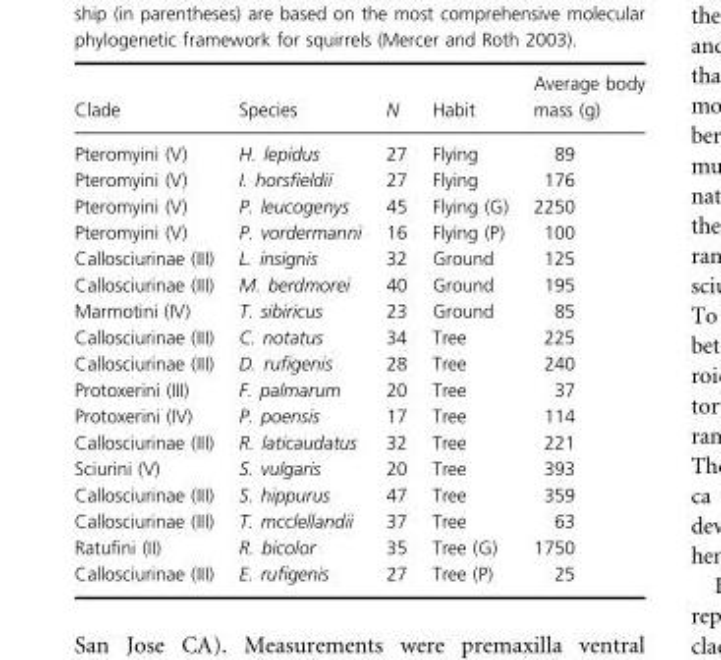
<table><thead><tr><td>Clade</td><td>Species</td><td>N</td><td>Habit</td><td>Average body mass (g)</td></tr></thead><tbody><tr><td>Pteromyini (V)</td><td>H. lepidus</td><td>27</td><td>Flying</td><td>89</td></tr><tr><td>Pteromyini (V)</td><td>I. horsfieldii</td><td>27</td><td>Flying</td><td>176</td></tr><tr><td>Pteromyini (V)</td><td>P. leucogenys</td><td>45</td><td>Flying (G)</td><td>2250</td></tr><tr><td>Pteromyini (V)</td><td>P. vordermanni</td><td>16</td><td>Flying (P)</td><td>100</td></tr><tr><td>Callosciurinae (III)</td><td>L. insignis</td><td>32</td><td>Ground</td><td>125</td></tr><tr><td>Callosciurinae (III)</td><td>M. berdmorei</td><td>40</td><td>Ground</td><td>195</td></tr><tr><td>Marmotini (IV)</td><td>T. sibiricus</td><td>23</td><td>Ground</td><td>85</td></tr><tr><td>Callosciurinae (III)</td><td>C. notatus</td><td>34</td><td>Tree</td><td>225</td></tr><tr><td>Callosciurinae (III)</td><td>D. rufigenis</td><td>28</td><td>Tree</td><td>240</td></tr><tr><td>Protoxerini (III)</td><td>F. palmarum</td><td>20</td><td>Tree</td><td>37</td></tr><tr><td>Protoxerini (IV)</td><td>P. poensis</td><td>17</td><td>Tree</td><td>114</td></tr><tr><td>Callosciurinae (III)</td><td>R. laticaudatus</td><td>32</td><td>Tree</td><td>221</td></tr><tr><td>Sciurini (V)</td><td>S. vulgaris</td><td>20</td><td>Tree</td><td>393</td></tr><tr><td>Callosciurinae (III)</td><td>S. hippurus</td><td>47</td><td>Tree</td><td>359</td></tr><tr><td>Callosciurinae (III)</td><td>T. mcclellandii</td><td>37</td><td>Tree</td><td>63</td></tr><tr><td>Ratufini (II)</td><td>R. bicolor</td><td>35</td><td>Tree (G)</td><td>1750</td></tr><tr><td>Callosciurinae (III)</td><td>E. rufigenis</td><td>27</td><td>Tree (P)</td><td>25</td></tr></tbody></table>